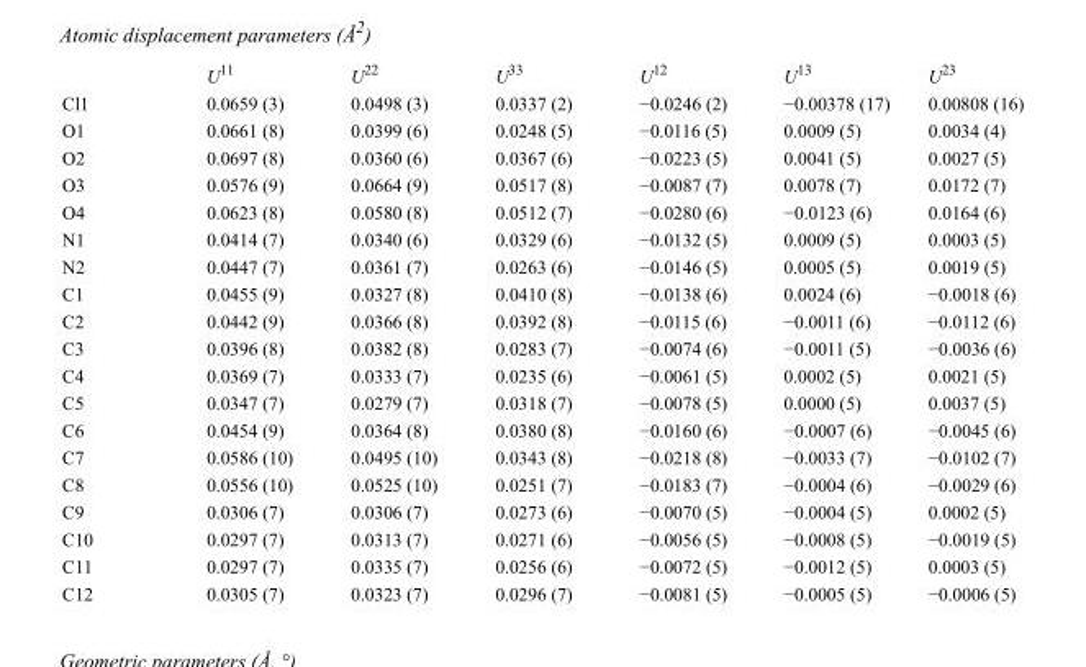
<table><thead><tr><td></td><td>U<sup>11</sup></td><td>U<sup>22</sup></td><td>U<sup>33</sup></td><td>U<sup>12</sup></td><td>U<sup>13</sup></td><td>U<sup>23</sup></td></tr></thead><tbody><tr><td>Cl1</td><td>0.0659 (3)</td><td>0.0498 (3)</td><td>0.0337 (2)</td><td>−0.0246 (2)</td><td>−0.00378 (17)</td><td>0.00808 (16)</td></tr><tr><td>O1</td><td>0.0661 (8)</td><td>0.0399 (6)</td><td>0.0248 (5)</td><td>−0.0116 (5)</td><td>0.0009 (5)</td><td>0.0034 (4)</td></tr><tr><td>O2</td><td>0.0697 (8)</td><td>0.0360 (6)</td><td>0.0367 (6)</td><td>−0.0223 (5)</td><td>0.0041 (5)</td><td>0.0027 (5)</td></tr><tr><td>O3</td><td>0.0576 (9)</td><td>0.0664 (9)</td><td>0.0517 (8)</td><td>−0.0087 (7)</td><td>0.0078 (7)</td><td>0.0172 (7)</td></tr><tr><td>O4</td><td>0.0623 (8)</td><td>0.0580 (8)</td><td>0.0512 (7)</td><td>−0.0280 (6)</td><td>−0.0123 (6)</td><td>0.0164 (6)</td></tr><tr><td>N1</td><td>0.0414 (7)</td><td>0.0340 (6)</td><td>0.0329 (6)</td><td>−0.0132 (5)</td><td>0.0009 (5)</td><td>0.0003 (5)</td></tr><tr><td>N2</td><td>0.0447 (7)</td><td>0.0361 (7)</td><td>0.0263 (6)</td><td>−0.0146 (5)</td><td>0.0005 (5)</td><td>0.0019 (5)</td></tr><tr><td>C1</td><td>0.0455 (9)</td><td>0.0327 (8)</td><td>0.0410 (8)</td><td>−0.0138 (6)</td><td>0.0024 (6)</td><td>−0.0018 (6)</td></tr><tr><td>C2</td><td>0.0442 (9)</td><td>0.0366 (8)</td><td>0.0392 (8)</td><td>−0.0115 (6)</td><td>−0.0011 (6)</td><td>−0.0112 (6)</td></tr><tr><td>C3</td><td>0.0396 (8)</td><td>0.0382 (8)</td><td>0.0283 (7)</td><td>−0.0074 (6)</td><td>−0.0011 (5)</td><td>−0.0036 (6)</td></tr><tr><td>C4</td><td>0.0369 (7)</td><td>0.0333 (7)</td><td>0.0235 (6)</td><td>−0.0061 (5)</td><td>0.0002 (5)</td><td>0.0021 (5)</td></tr><tr><td>C5</td><td>0.0347 (7)</td><td>0.0279 (7)</td><td>0.0318 (7)</td><td>−0.0078 (5)</td><td>0.0000 (5)</td><td>0.0037 (5)</td></tr><tr><td>C6</td><td>0.0454 (9)</td><td>0.0364 (8)</td><td>0.0380 (8)</td><td>−0.0160 (6)</td><td>−0.0007 (6)</td><td>−0.0045 (6)</td></tr><tr><td>C7</td><td>0.0586 (10)</td><td>0.0495 (10)</td><td>0.0343 (8)</td><td>−0.0218 (8)</td><td>−0.0033 (7)</td><td>−0.0102 (7)</td></tr><tr><td>C8</td><td>0.0556 (10)</td><td>0.0525 (10)</td><td>0.0251 (7)</td><td>−0.0183 (7)</td><td>−0.0004 (6)</td><td>−0.0029 (6)</td></tr><tr><td>C9</td><td>0.0306 (7)</td><td>0.0306 (7)</td><td>0.0273 (6)</td><td>−0.0070 (5)</td><td>−0.0004 (5)</td><td>0.0002 (5)</td></tr><tr><td>C10</td><td>0.0297 (7)</td><td>0.0313 (7)</td><td>0.0271 (6)</td><td>−0.0056 (5)</td><td>−0.0008 (5)</td><td>−0.0019 (5)</td></tr><tr><td>C11</td><td>0.0297 (7)</td><td>0.0335 (7)</td><td>0.0256 (6)</td><td>−0.0072 (5)</td><td>−0.0012 (5)</td><td>0.0003 (5)</td></tr><tr><td>C12</td><td>0.0305 (7)</td><td>0.0323 (7)</td><td>0.0296 (7)</td><td>−0.0081 (5)</td><td>−0.0005 (5)</td><td>−0.0006 (5)</td></tr></tbody></table>